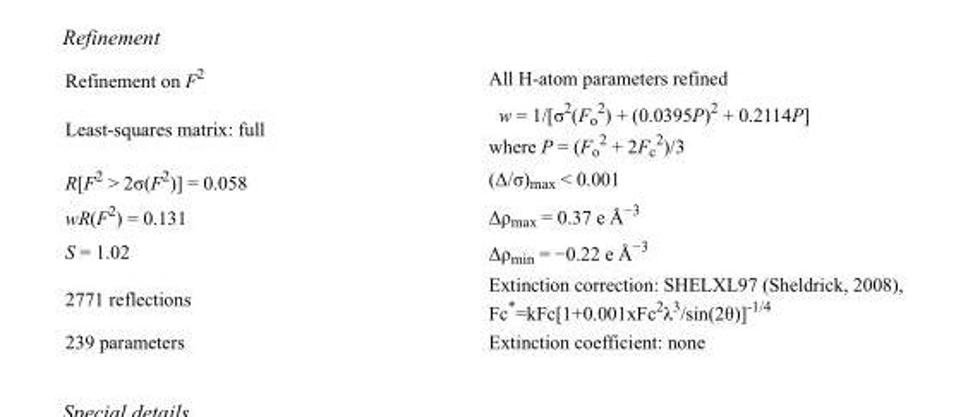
<table><tbody><tr><td>Refinement on F<sup>2</sup></td><td>All H-atom parameters refined</td></tr><tr><td>Least-squares matrix: full</td><td>w = 1/[σ<sup>2</sup>(F<sub>o</sub> <sup>2</sup>) + (0.0395P)<sup>2</sup> + 0.2114P] where P = (F<sub>o</sub> <sup>2</sup> + 2F<sub>c</sub> <sup>2</sup>)/3</td></tr><tr><td>R[F<sup>2</sup> &gt; 2σ(F<sup>2</sup>)] = 0.058</td><td>(Δ/σ)<sub>max</sub> &lt; 0.001</td></tr><tr><td>wR(F<sup>2</sup>) = 0.131</td><td>Δρ<sub>max</sub> = 0.37 e Å<sup>−3</sup></td></tr><tr><td>S = 1.02</td><td>Δρ<sub>min</sub> = −0.22 e Å<sup>−3</sup></td></tr><tr><td>2771 reflections</td><td>Extinction correction: SHELXL97 (Sheldrick, 2008), Fc*=kFc[1+0.001xFc<sup>2</sup>λ<sup>3</sup>/sin(2θ)]<sup>-1/4</sup></td></tr><tr><td>239 parameters</td><td>Extinction coefficient: none</td></tr></tbody></table>